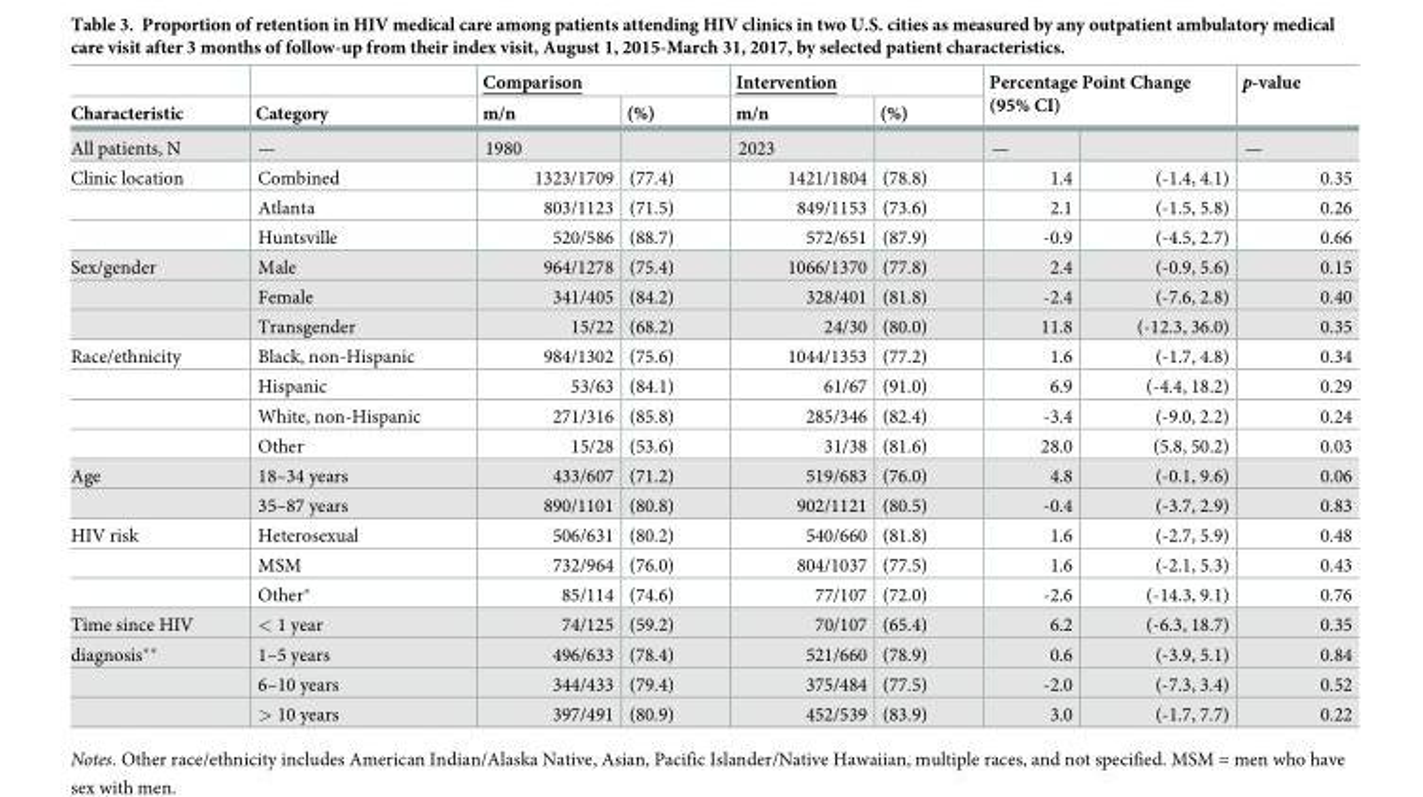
<table><thead><tr><td rowspan="3">Characteristic All patients, N</td><td rowspan="3">Category —</td><td colspan="2">Comparison</td><td colspan="2">Intervention</td><td rowspan="2" colspan="2">Percentage Point Change (95% CI)</td><td rowspan="3">p-value —</td></tr><tr><td rowspan="2">m/n 1980</td><td rowspan="2">(%)</td><td rowspan="2">m/n 2023</td><td rowspan="2">(%)</td></tr><tr><td>—</td><td></td></tr></thead><tbody><tr><td rowspan="3">Clinic location</td><td>Combined</td><td>1323/1709</td><td>(77.4)</td><td>1421/1804</td><td>(78.8)</td><td>1.4</td><td>(-1.4, 4.1)</td><td>0.35</td></tr><tr><td>Atlanta</td><td>803/1123</td><td>(71.5)</td><td>849/1153</td><td>(73.6)</td><td>2.1</td><td>(-1.5, 5.8)</td><td>0.26</td></tr><tr><td>Huntsville</td><td>520/586</td><td>(88.7)</td><td>572/651</td><td>(87.9)</td><td>-0.9</td><td>(-4.5, 2.7)</td><td>0.66</td></tr><tr><td rowspan="3">Sex/gender</td><td>Male</td><td>964/1278</td><td>(75.4)</td><td>1066/1370</td><td>(77.8)</td><td>2.4</td><td>(-0.9, 5.6)</td><td>0.15</td></tr><tr><td>Female</td><td>341/405</td><td>(84.2)</td><td>328/401</td><td>(81.8)</td><td>-2.4</td><td>(-7.6, 2.8)</td><td>0.40</td></tr><tr><td>Transgender</td><td>15/22</td><td>(68.2)</td><td>24/30</td><td>(80.0)</td><td>11.8</td><td>(-12.3, 36.0)</td><td>0.35</td></tr><tr><td rowspan="4">Race/ethnicity</td><td>Black, non-Hispanic</td><td>984/1302</td><td>(75.6)</td><td>1044/1353</td><td>(77.2)</td><td>1.6</td><td>(-1.7, 4.8)</td><td>0.34</td></tr><tr><td>Hispanic</td><td>53/63</td><td>(84.1)</td><td>61/67</td><td>(91.0)</td><td>6.9</td><td>(-4.4, 18.2)</td><td>0.29</td></tr><tr><td>White, non-Hispanic</td><td>271/316</td><td>(85.8)</td><td>285/346</td><td>(82.4)</td><td>-3.4</td><td>(-9.0, 2.2)</td><td>0.24</td></tr><tr><td>Other</td><td>15/28</td><td>(53.6)</td><td>31/38</td><td>(81.6)</td><td>28.0</td><td>(5.8, 50.2)</td><td>0.03</td></tr><tr><td rowspan="2">Age</td><td>18–34 years</td><td>433/607</td><td>(71.2)</td><td>519/683</td><td>(76.0)</td><td>4.8</td><td>(-0.1, 9.6)</td><td>0.06</td></tr><tr><td>35–87 years</td><td>890/1101</td><td>(80.8)</td><td>902/1121</td><td>(80.5)</td><td>-0.4</td><td>(-3.7, 2.9)</td><td>0.83</td></tr><tr><td rowspan="3">HIV risk</td><td>Heterosexual</td><td>506/631</td><td>(80.2)</td><td>540/660</td><td>(81.8)</td><td>1.6</td><td>(-2.7, 5.9)</td><td>0.48</td></tr><tr><td>MSM</td><td>732/964</td><td>(76.0)</td><td>804/1037</td><td>(77.5)</td><td>1.6</td><td>(-2.1, 5.3)</td><td>0.43</td></tr><tr><td>Other*</td><td>85/114</td><td>(74.6)</td><td>77/107</td><td>(72.0)</td><td>-2.6</td><td>(-14.3, 9.1)</td><td>0.76</td></tr><tr><td>Time since HIV</td><td>&lt; 1 year</td><td>74/125</td><td>(59.2)</td><td>70/107</td><td>(65.4)</td><td>6.2</td><td>(-6.3, 18.7)</td><td>0.35</td></tr><tr><td rowspan="3">diagnosis**</td><td>1–5 years</td><td>496/633</td><td>(78.4)</td><td>521/660</td><td>(78.9)</td><td>0.6</td><td>(-3.9, 5.1)</td><td>0.84</td></tr><tr><td>6–10 years</td><td>344/433</td><td>(79.4)</td><td>375/484</td><td>(77.5)</td><td>-2.0</td><td>(-7.3, 3.4)</td><td>0.52</td></tr><tr><td>&gt; 10 years</td><td>397/491</td><td>(80.9)</td><td>452/539</td><td>(83.9)</td><td>3.0</td><td>(-1.7, 7.7)</td><td>0.22</td></tr></tbody></table>